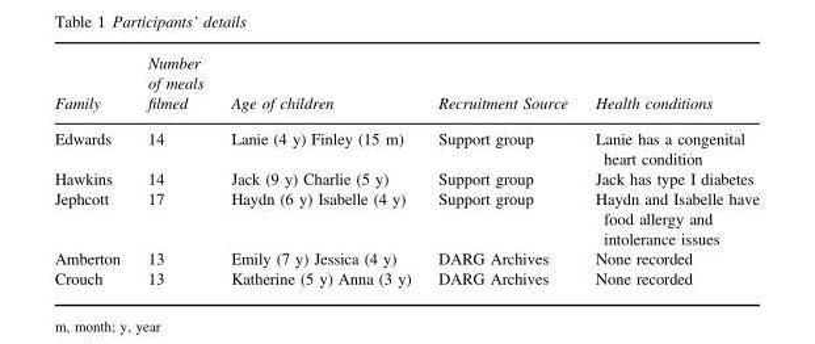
<table><thead><tr><td>Family</td><td>Number of meals filmed</td><td>Age of children</td><td>Recruitment Source</td><td>Health conditions</td></tr></thead><tbody><tr><td>Edwards</td><td>14</td><td>Lanie (4 y) Finley (15 m)</td><td>Support group</td><td>Lanie has a congenital heart condition</td></tr><tr><td>Hawkins</td><td>14</td><td>Jack (9 y) Charlie (5 y)</td><td>Support group</td><td>Jack has type I diabetes</td></tr><tr><td>Jephcott</td><td>17</td><td>Haydn (6 y) Isabelle (4 y)</td><td>Support group</td><td>Haydn and Isabelle have food allergy and intolerance issues</td></tr><tr><td>Amberton</td><td>13</td><td>Emily (7 y) Jessica (4 y)</td><td>DARG Archives</td><td>None recorded</td></tr><tr><td>Crouch</td><td>13</td><td>Katherine (5 y) Anna (3 y)</td><td>DARG Archives</td><td>None recorded</td></tr></tbody></table>